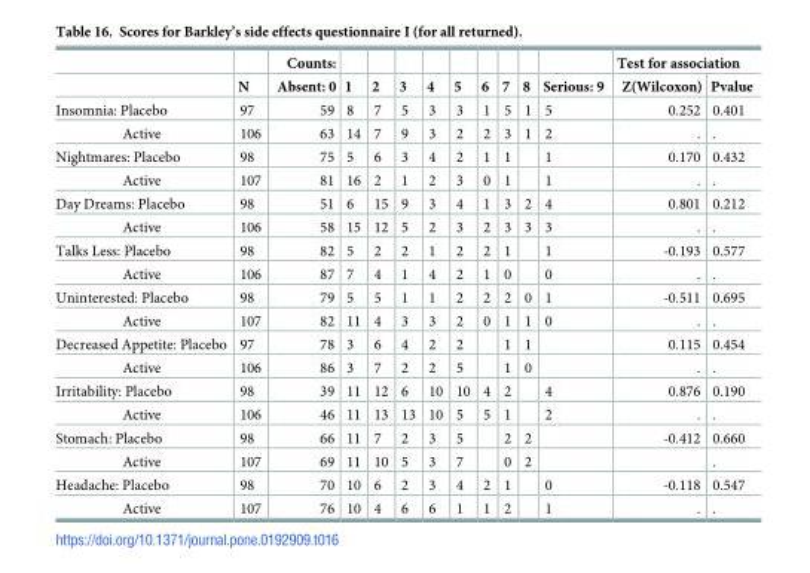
<table><thead><tr><td rowspan="2"></td><td rowspan="2">N</td><td rowspan="2">Counts: Absent: 0</td><td rowspan="2">1</td><td rowspan="2">2</td><td rowspan="2">3</td><td rowspan="2">4</td><td rowspan="2">5</td><td rowspan="2">6</td><td rowspan="2">7</td><td rowspan="2">8</td><td rowspan="2">Serious: 9</td><td colspan="2">Test for association</td></tr><tr><td>Z(Wilcoxon)</td><td>Pvalue</td></tr></thead><tbody><tr><td>Insomnia: Placebo</td><td>97</td><td>59</td><td>8</td><td>7</td><td>5</td><td>3</td><td>3</td><td>1</td><td>5</td><td>1</td><td>5</td><td>0.252</td><td>0.401</td></tr><tr><td>Active</td><td>106</td><td>63</td><td>14</td><td>7</td><td>9</td><td>3</td><td>2</td><td>2</td><td>3</td><td>1</td><td>2</td><td>.</td><td>.</td></tr><tr><td>Nightmares: Placebo</td><td>98</td><td>75</td><td>5</td><td>6</td><td>3</td><td>4</td><td>2</td><td>1</td><td>1</td><td></td><td>1</td><td>0.170</td><td>0.432</td></tr><tr><td>Active</td><td>107</td><td>81</td><td>16</td><td>2</td><td>1</td><td>2</td><td>3</td><td>0</td><td>1</td><td></td><td>1</td><td>.</td><td>.</td></tr><tr><td>Day Dreams: Placebo</td><td>98</td><td>51</td><td>6</td><td>15</td><td>9</td><td>3</td><td>4</td><td>1</td><td>3</td><td>2</td><td>4</td><td>0.801</td><td>0.212</td></tr><tr><td>Active</td><td>106</td><td>58</td><td>15</td><td>12</td><td>5</td><td>2</td><td>3</td><td>2</td><td>3</td><td>3</td><td>3</td><td>.</td><td>.</td></tr><tr><td>Talks Less: Placebo</td><td>98</td><td>82</td><td>5</td><td>2</td><td>2</td><td>1</td><td>2</td><td>2</td><td>1</td><td></td><td>1</td><td>-0.193</td><td>0.577</td></tr><tr><td>Active</td><td>106</td><td>87</td><td>7</td><td>4</td><td>1</td><td>4</td><td>2</td><td>1</td><td>0</td><td></td><td>0</td><td>.</td><td>.</td></tr><tr><td>Uninterested: Placebo</td><td>98</td><td>79</td><td>5</td><td>5</td><td>1</td><td>1</td><td>2</td><td>2</td><td>2</td><td>0</td><td>1</td><td>-0.511</td><td>0.695</td></tr><tr><td>Active</td><td>107</td><td>82</td><td>11</td><td>4</td><td>3</td><td>3</td><td>2</td><td>0</td><td>1</td><td>1</td><td>0</td><td>.</td><td>.</td></tr><tr><td>Decreased Appetite: Placebo</td><td>97</td><td>78</td><td>3</td><td>6</td><td>4</td><td>2</td><td>2</td><td></td><td>1</td><td>1</td><td></td><td>0.115</td><td>0.454</td></tr><tr><td>Active</td><td>106</td><td>86</td><td>3</td><td>7</td><td>2</td><td>2</td><td>5</td><td></td><td>1</td><td>0</td><td></td><td>.</td><td>.</td></tr><tr><td>Irritability: Placebo</td><td>98</td><td>39</td><td>11</td><td>12</td><td>6</td><td>10</td><td>10</td><td>4</td><td>2</td><td></td><td>4</td><td>0.876</td><td>0.190</td></tr><tr><td>Active</td><td>106</td><td>46</td><td>11</td><td>13</td><td>13</td><td>10</td><td>5</td><td>5</td><td>1</td><td></td><td>2</td><td>.</td><td>.</td></tr><tr><td>Stomach: Placebo</td><td>98</td><td>66</td><td>11</td><td>7</td><td>2</td><td>3</td><td>5</td><td></td><td>2</td><td>2</td><td></td><td>-0.412</td><td>0.660</td></tr><tr><td>Active</td><td>107</td><td>69</td><td>11</td><td>10</td><td>5</td><td>3</td><td>7</td><td></td><td>0</td><td>2</td><td></td><td></td><td>.</td></tr><tr><td>Headache: Placebo</td><td>98</td><td>70</td><td>10</td><td>6</td><td>2</td><td>3</td><td>4</td><td>2</td><td>1</td><td></td><td>0</td><td>-0.118</td><td>0.547</td></tr><tr><td>Active</td><td>107</td><td>76</td><td>10</td><td>4</td><td>6</td><td>6</td><td>1</td><td>1</td><td>2</td><td></td><td>1</td><td>.</td><td>.</td></tr></tbody></table>